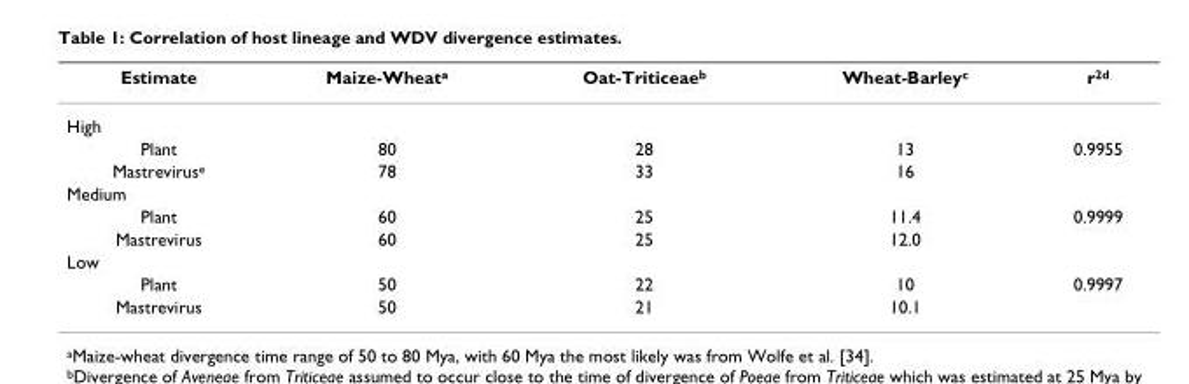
<table><thead><tr><td>Estimate</td><td>Maize-Wheat<sup>a</sup></td><td>Oat-Triticeae<sup>b</sup></td><td>Wheat-Barley<sup>c</sup></td><td>r<sup>2d</sup></td></tr></thead><tbody><tr><td colspan="5">High</td></tr><tr><td>Plant</td><td>80</td><td>28</td><td>13</td><td>0.9955</td></tr><tr><td>Mastrevirus<sup>e</sup></td><td>78</td><td>33</td><td>16</td><td></td></tr><tr><td colspan="5">Medium</td></tr><tr><td>Plant</td><td>60</td><td>25</td><td>11.4</td><td>0.9999</td></tr><tr><td>Mastrevirus</td><td>60</td><td>25</td><td>12.0</td><td></td></tr><tr><td colspan="5">Low</td></tr><tr><td>Plant</td><td>50</td><td>22</td><td>10</td><td>0.9997</td></tr><tr><td>Mastrevirus</td><td>50</td><td>21</td><td>10.1</td><td></td></tr></tbody></table>